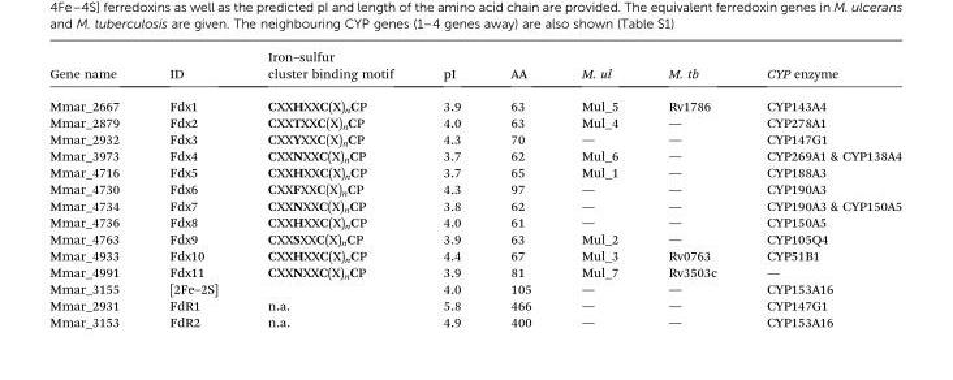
<table><thead><tr><td>Gene name</td><td>ID</td><td>Iron–sulfur cluster binding motif</td><td>pI</td><td>AA</td><td>M. ul</td><td>M. tb</td><td>CYP enzyme</td></tr></thead><tbody><tr><td>Mmar_2667</td><td>Fdx1</td><td>CXXHXXC(X)<sub>n</sub>CP</td><td>3.9</td><td>63</td><td>Mul_5</td><td>Rv1786</td><td>CYP143A4</td></tr><tr><td>Mmar_2879</td><td>Fdx2</td><td>CXXTXXC(X)<sub>n</sub>CP</td><td>4.0</td><td>63</td><td>Mul_4</td><td>—</td><td>CYP278A1</td></tr><tr><td>Mmar_2932</td><td>Fdx3</td><td>CXXYXXC(X)<sub>n</sub>CP</td><td>4.3</td><td>70</td><td>—</td><td>—</td><td>CYP147G1</td></tr><tr><td>Mmar_3973</td><td>Fdx4</td><td>CXXNXXC(X)<sub>n</sub>CP</td><td>3.7</td><td>62</td><td>Mul_6</td><td>—</td><td>CYP269A1 &amp; CYP138A4</td></tr><tr><td>Mmar_4716</td><td>Fdx5</td><td>CXXHXXC(X)<sub>n</sub>CP</td><td>3.7</td><td>65</td><td>Mul_1</td><td>—</td><td>CYP188A3</td></tr><tr><td>Mmar_4730</td><td>Fdx6</td><td>CXXFXXC(X)<sub>n</sub>CP</td><td>4.3</td><td>97</td><td>—</td><td>—</td><td>CYP190A3</td></tr><tr><td>Mmar_4734</td><td>Fdx7</td><td>CXXNXXC(X)<sub>n</sub>CP</td><td>3.8</td><td>62</td><td>—</td><td>—</td><td>CYP190A3 &amp; CYP150A5</td></tr><tr><td>Mmar_4736</td><td>Fdx8</td><td>CXXHXXC(X)<sub>n</sub>CP</td><td>4.0</td><td>61</td><td>—</td><td>—</td><td>CYP150A5</td></tr><tr><td>Mmar_4763</td><td>Fdx9</td><td>CXXSXXC(X)<sub>n</sub>CP</td><td>3.9</td><td>63</td><td>Mul_2</td><td>—</td><td>CYP105Q4</td></tr><tr><td>Mmar_4933</td><td>Fdx10</td><td>CXXHXXC(X)<sub>n</sub>CP</td><td>4.4</td><td>67</td><td>Mul_3</td><td>Rv0763</td><td>CYP51B1</td></tr><tr><td>Mmar_4991</td><td>Fdx11</td><td>CXXNXXC(X)<sub>n</sub>CP</td><td>3.9</td><td>81</td><td>Mul_7</td><td>Rv3503c</td><td>—</td></tr><tr><td>Mmar_3155</td><td>[2Fe–2S]</td><td></td><td>4.0</td><td>105</td><td>—</td><td>—</td><td>CYP153A16</td></tr><tr><td>Mmar_2931</td><td>FdR1</td><td>n.a.</td><td>5.8</td><td>466</td><td>—</td><td>—</td><td>CYP147G1</td></tr><tr><td>Mmar_3153</td><td>FdR2</td><td>n.a.</td><td>4.9</td><td>400</td><td>—</td><td>—</td><td>CYP153A16</td></tr></tbody></table>